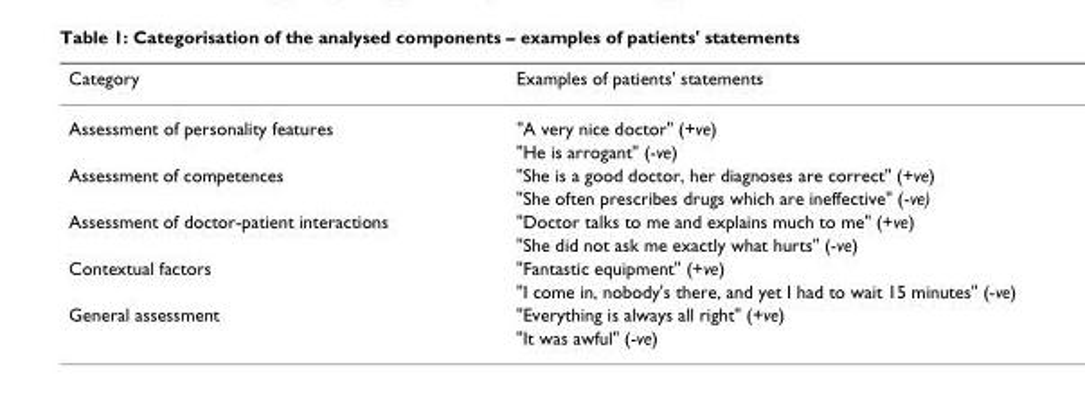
<table><thead><tr><td>Category</td><td>Examples of patients&#x27; statements</td></tr></thead><tbody><tr><td rowspan="2">Assessment of personality features</td><td>&quot;A very nice doctor&quot; (+ve)</td></tr><tr><td>&quot;He is arrogant&quot; (-ve)</td></tr><tr><td rowspan="2">Assessment of competences</td><td>&quot;She is a good doctor, her diagnoses are correct&quot; (+ve)</td></tr><tr><td>&quot;She often prescribes drugs which are ineffective&quot; (-ve)</td></tr><tr><td rowspan="2">Assessment of doctor-patient interactions</td><td>&quot;Doctor talks to me and explains much to me&quot; (+ve)</td></tr><tr><td>&quot;She did not ask me exactly what hurts&quot; (-ve)</td></tr><tr><td rowspan="2">Contextual factors</td><td>&quot;Fantastic equipment&quot; (+ve)</td></tr><tr><td>&quot;I come in, nobody&#x27;s there, and yet I had to wait 15 minutes&quot; (-ve)</td></tr><tr><td rowspan="2">General assessment</td><td>&quot;Everything is always all right&quot; (+ve)</td></tr><tr><td>&quot;It was awful&quot; (-ve)</td></tr></tbody></table>